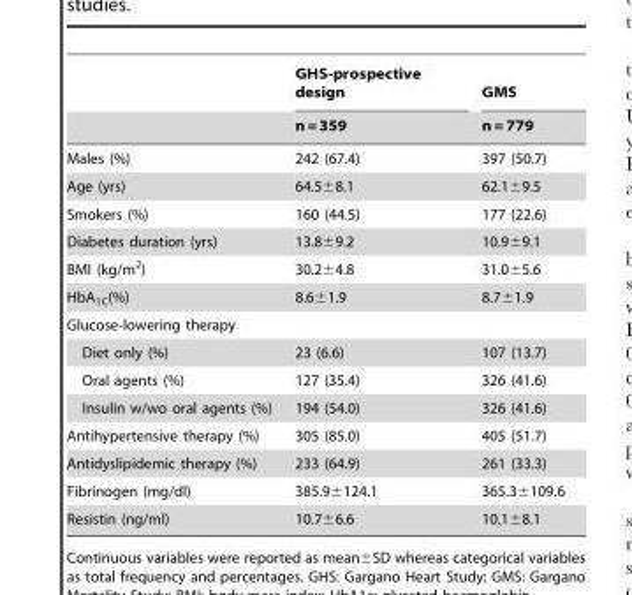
<table><thead><tr><td rowspan="2"></td><td rowspan="2">GHS-prospective design n = 359</td><td rowspan="2">GMS n = 779</td></tr><tr></tr></thead><tbody><tr><td>Males (%)</td><td>242 (67.4)</td><td>397 (50.7)</td></tr><tr><td>Age (yrs)</td><td>64.5±8.1</td><td>62.1±9.5</td></tr><tr><td>Smokers (%)</td><td>160 (44.5)</td><td>177 (22.6)</td></tr><tr><td>Diabetes duration (yrs)</td><td>13.8±9.2</td><td>10.9±9.1</td></tr><tr><td>BMI (kg/m<sup>2</sup>)</td><td>30.2±4.8</td><td>31.0±5.6</td></tr><tr><td>HbA<sub>1C</sub>(%)</td><td>8.6±1.9</td><td>8.7±1.9</td></tr><tr><td colspan="3">Glucose-lowering therapy</td></tr><tr><td>Diet only (%)</td><td>23 (6.6)</td><td>107 (13.7)</td></tr><tr><td>Oral agents (%)</td><td>127 (35.4)</td><td>326 (41.6)</td></tr><tr><td>Insulin w/wo oral agents (%)</td><td>194 (54.0)</td><td>326 (41.6)</td></tr><tr><td>Antihypertensive therapy (%)</td><td>305 (85.0)</td><td>405 (51.7)</td></tr><tr><td>Antidyslipidemic therapy (%)</td><td>233 (64.9)</td><td>261 (33.3)</td></tr><tr><td>Fibrinogen (mg/dl)</td><td>385.9±124.1</td><td>365.3±109.6</td></tr><tr><td>Resistin (ng/ml)</td><td>10.7±6.6</td><td>10.1±8.1</td></tr></tbody></table>